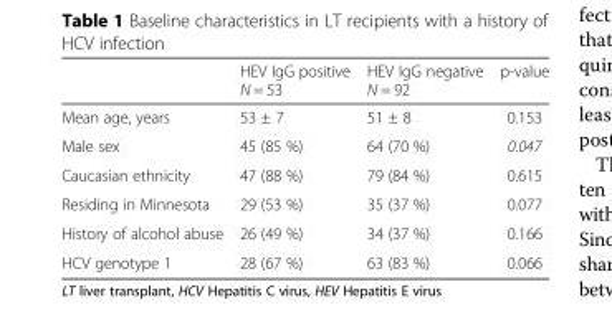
<table><thead><tr><td></td><td>HEV IgG positive N = 53</td><td>HEV IgG negative N = 92</td><td>p-value</td></tr></thead><tbody><tr><td>Mean age, years</td><td>53 ± 7</td><td>51 ± 8</td><td>0.153</td></tr><tr><td>Male sex</td><td>45 (85 %)</td><td>64 (70 %)</td><td>0.047</td></tr><tr><td>Caucasian ethnicity</td><td>47 (88 %)</td><td>79 (84 %)</td><td>0.615</td></tr><tr><td>Residing in Minnesota</td><td>29 (53 %)</td><td>35 (37 %)</td><td>0.077</td></tr><tr><td>History of alcohol abuse</td><td>26 (49 %)</td><td>34 (37 %)</td><td>0.166</td></tr><tr><td>HCV genotype 1</td><td>28 (67 %)</td><td>63 (83 %)</td><td>0.066</td></tr></tbody></table>